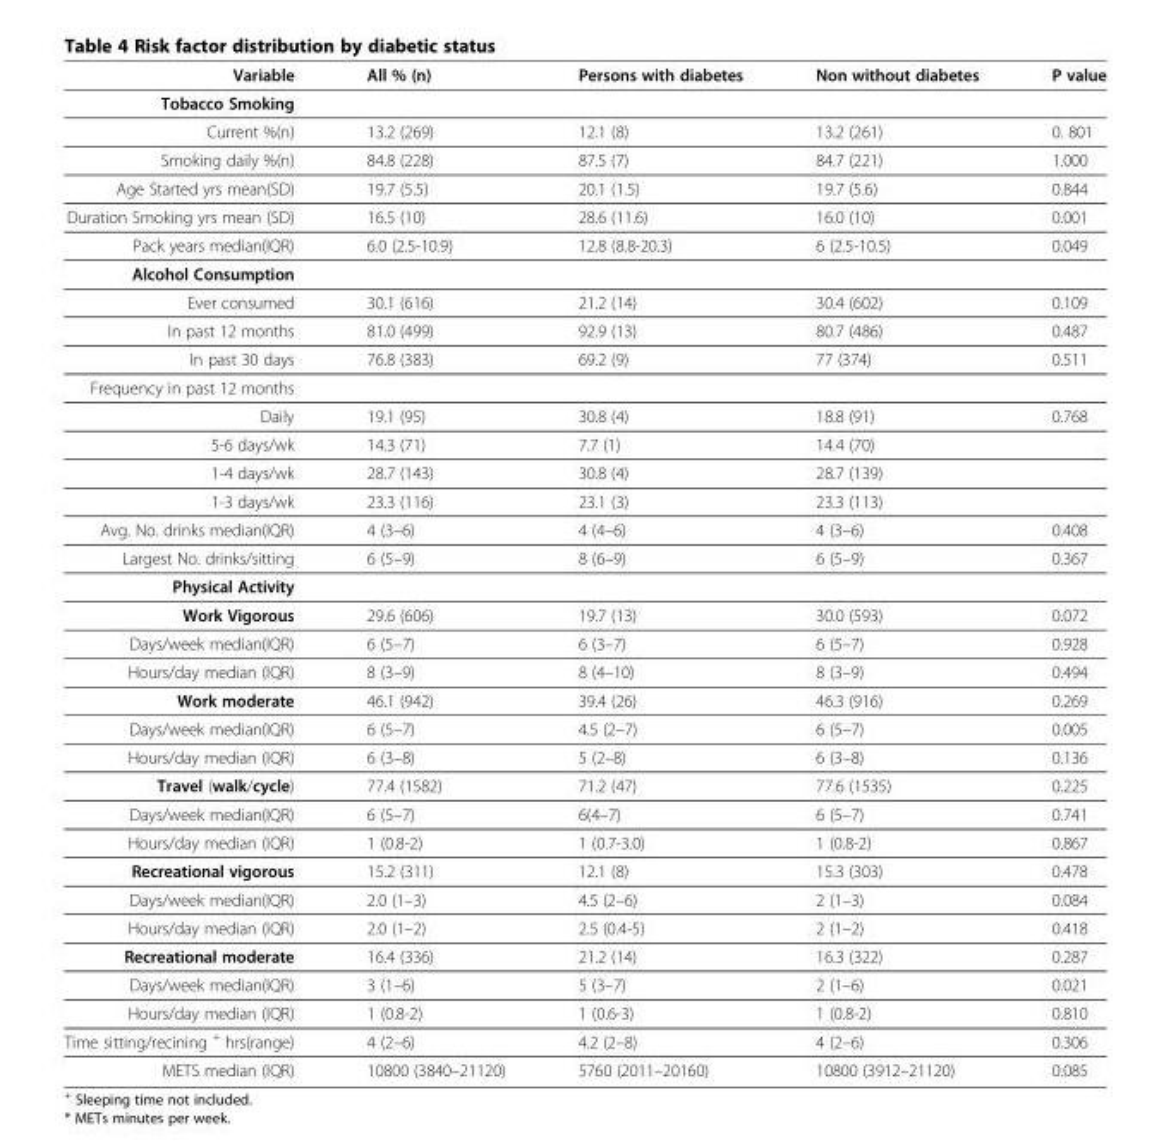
<table><thead><tr><td>Variable</td><td>All % (n)</td><td>Persons with diabetes</td><td>Non without diabetes</td><td>P value</td></tr></thead><tbody><tr><td colspan="5">Tobacco Smoking</td></tr><tr><td>Current %(n)</td><td>13.2 (269)</td><td>12.1 (8)</td><td>13.2 (261)</td><td>0. 801</td></tr><tr><td>Smoking daily %(n)</td><td>84.8 (228)</td><td>87.5 (7)</td><td>84.7 (221)</td><td>1.000</td></tr><tr><td>Age Started yrs mean(SD)</td><td>19.7 (5.5)</td><td>20.1 (1.5)</td><td>19.7 (5.6)</td><td>0.844</td></tr><tr><td>Duration Smoking yrs mean (SD)</td><td>16.5 (10)</td><td>28.6 (11.6)</td><td>16.0 (10)</td><td>0.001</td></tr><tr><td>Pack years median(IQR)</td><td>6.0 (2.5-10.9)</td><td>12.8 (8.8-20.3)</td><td>6 (2.5-10.5)</td><td>0.049</td></tr><tr><td colspan="5">Alcohol Consumption</td></tr><tr><td>Ever consumed</td><td>30.1 (616)</td><td>21.2 (14)</td><td>30.4 (602)</td><td>0.109</td></tr><tr><td>In past 12 months</td><td>81.0 (499)</td><td>92.9 (13)</td><td>80.7 (486)</td><td>0.487</td></tr><tr><td>In past 30 days</td><td>76.8 (383)</td><td>69.2 (9)</td><td>77 (374)</td><td>0.511</td></tr><tr><td colspan="5">Frequency in past 12 months</td></tr><tr><td>Daily</td><td>19.1 (95)</td><td>30.8 (4)</td><td>18.8 (91)</td><td>0.768</td></tr><tr><td>5-6 days/wk</td><td>14.3 (71)</td><td>7.7 (1)</td><td>14.4 (70)</td><td></td></tr><tr><td>1-4 days/wk</td><td>28.7 (143)</td><td>30.8 (4)</td><td>28.7 (139)</td><td></td></tr><tr><td>1-3 days/wk</td><td>23.3 (116)</td><td>23.1 (3)</td><td>23.3 (113)</td><td></td></tr><tr><td>Avg. No. drinks median(IQR)</td><td>4 (3–6)</td><td>4 (4–6)</td><td>4 (3–6)</td><td>0.408</td></tr><tr><td>Largest No. drinks/sitting</td><td>6 (5–9)</td><td>8 (6–9)</td><td>6 (5–9)</td><td>0.367</td></tr><tr><td colspan="5">Physical Activity</td></tr><tr><td>Work Vigorous</td><td>29.6 (606)</td><td>19.7 (13)</td><td>30.0 (593)</td><td>0.072</td></tr><tr><td>Days/week median(IQR)</td><td>6 (5–7)</td><td>6 (3–7)</td><td>6 (5–7)</td><td>0.928</td></tr><tr><td>Hours/day median (IQR)</td><td>8 (3–9)</td><td>8 (4–10)</td><td>8 (3–9)</td><td>0.494</td></tr><tr><td>Work moderate</td><td>46.1 (942)</td><td>39.4 (26)</td><td>46.3 (916)</td><td>0.269</td></tr><tr><td>Days/week median(IQR)</td><td>6 (5–7)</td><td>4.5 (2–7)</td><td>6 (5–7)</td><td>0.005</td></tr><tr><td>Hours/day median (IQR)</td><td>6 (3–8)</td><td>5 (2–8)</td><td>6 (3–8)</td><td>0.136</td></tr><tr><td>Travel (walk/cycle)</td><td>77.4 (1582)</td><td>71.2 (47)</td><td>77.6 (1535)</td><td>0.225</td></tr><tr><td>Days/week median(IQR)</td><td>6 (5–7)</td><td>6(4–7)</td><td>6 (5–7)</td><td>0.741</td></tr><tr><td>Hours/day median (IQR)</td><td>1 (0.8-2)</td><td>1 (0.7-3.0)</td><td>1 (0.8-2)</td><td>0.867</td></tr><tr><td>Recreational vigorous</td><td>15.2 (311)</td><td>12.1 (8)</td><td>15.3 (303)</td><td>0.478</td></tr><tr><td>Days/week median(IQR)</td><td>2.0 (1–3)</td><td>4.5 (2–6)</td><td>2 (1–3)</td><td>0.084</td></tr><tr><td>Hours/day median (IQR)</td><td>2.0 (1–2)</td><td>2.5 (0.4-5)</td><td>2 (1–2)</td><td>0.418</td></tr><tr><td>Recreational moderate</td><td>16.4 (336)</td><td>21.2 (14)</td><td>16.3 (322)</td><td>0.287</td></tr><tr><td>Days/week median(IQR)</td><td>3 (1–6)</td><td>5 (3–7)</td><td>2 (1–6)</td><td>0.021</td></tr><tr><td>Hours/day median (IQR)</td><td>1 (0.8-2)</td><td>1 (0.6-3)</td><td>1 (0.8-2)</td><td>0.810</td></tr><tr><td>Time sitting/recining <sup>+</sup> hrs(range)</td><td>4 (2–6)</td><td>4.2 (2–8)</td><td>4 (2–6)</td><td>0.306</td></tr><tr><td>METS median (IQR)</td><td>10800 (3840–21120)</td><td>5760 (2011–20160)</td><td>10800 (3912–21120)</td><td>0.085</td></tr></tbody></table>